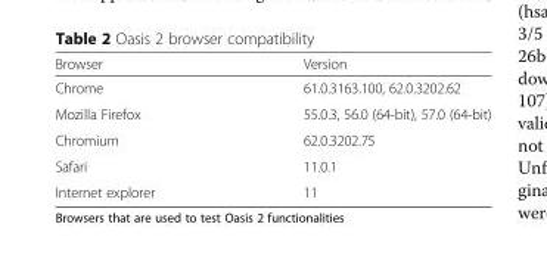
<table><thead><tr><td>Browser</td><td>Version</td></tr></thead><tbody><tr><td>Chrome</td><td>61.0.3163.100, 62.0.3202.62</td></tr><tr><td>Mozilla Firefox</td><td>55.0.3, 56.0 (64-bit), 57.0 (64-bit)</td></tr><tr><td>Chromium</td><td>62.0.3202.75</td></tr><tr><td>Safari</td><td>11.0.1</td></tr><tr><td>Internet explorer</td><td>11</td></tr></tbody></table>